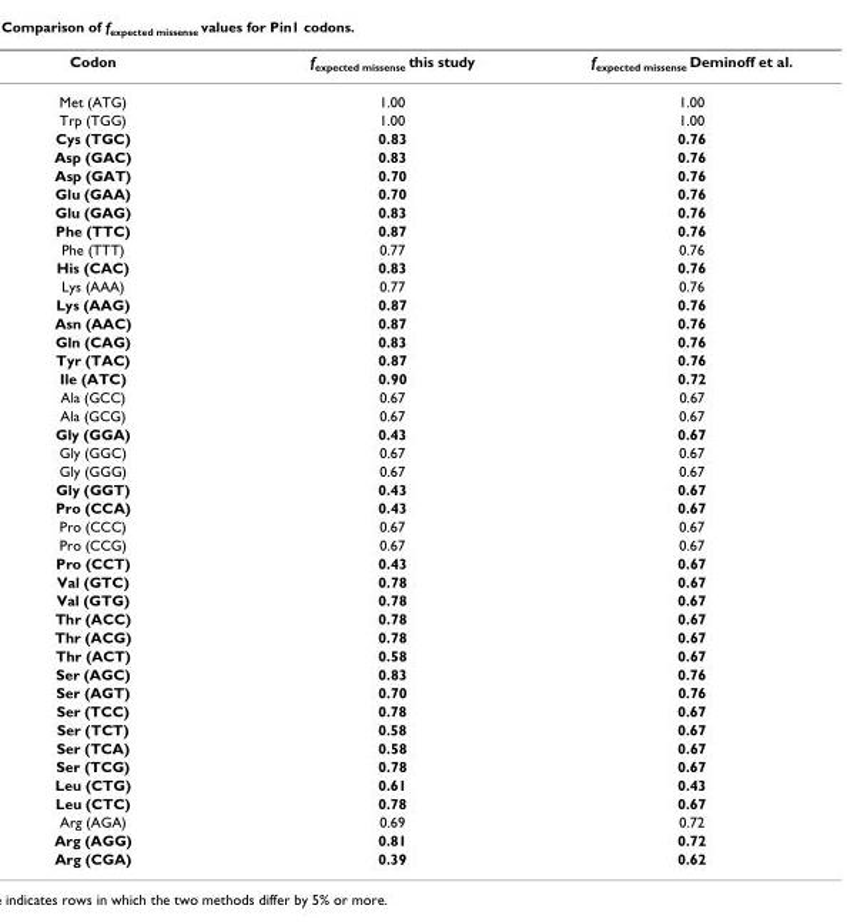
<table><thead><tr><td>Codon</td><td>fexpected missense this study</td><td>fexpected missense Deminoff et al.</td></tr></thead><tbody><tr><td>Met (ATG)</td><td>1.00</td><td>1.00</td></tr><tr><td>Trp (TGG)</td><td>1.00</td><td>1.00</td></tr><tr><td>Cys (TGC)</td><td>0.83</td><td>0.76</td></tr><tr><td>Asp (GAC)</td><td>0.83</td><td>0.76</td></tr><tr><td>Asp (GAT)</td><td>0.70</td><td>0.76</td></tr><tr><td>Glu (GAA)</td><td>0.70</td><td>0.76</td></tr><tr><td>Glu (GAG)</td><td>0.83</td><td>0.76</td></tr><tr><td>Phe (TTC)</td><td>0.87</td><td>0.76</td></tr><tr><td>Phe (TTT)</td><td>0.77</td><td>0.76</td></tr><tr><td>His (CAC)</td><td>0.83</td><td>0.76</td></tr><tr><td>Lys (AAA)</td><td>0.77</td><td>0.76</td></tr><tr><td>Lys (AAG)</td><td>0.87</td><td>0.76</td></tr><tr><td>Asn (AAC)</td><td>0.87</td><td>0.76</td></tr><tr><td>Gln (CAG)</td><td>0.83</td><td>0.76</td></tr><tr><td>Tyr (TAC)</td><td>0.87</td><td>0.76</td></tr><tr><td>Ile (ATC)</td><td>0.90</td><td>0.72</td></tr><tr><td>Ala (GCC)</td><td>0.67</td><td>0.67</td></tr><tr><td>Ala (GCG)</td><td>0.67</td><td>0.67</td></tr><tr><td>Gly (GGA)</td><td>0.43</td><td>0.67</td></tr><tr><td>Gly (GGC)</td><td>0.67</td><td>0.67</td></tr><tr><td>Gly (GGG)</td><td>0.67</td><td>0.67</td></tr><tr><td>Gly (GGT)</td><td>0.43</td><td>0.67</td></tr><tr><td>Pro (CCA)</td><td>0.43</td><td>0.67</td></tr><tr><td>Pro (CCC)</td><td>0.67</td><td>0.67</td></tr><tr><td>Pro (CCG)</td><td>0.67</td><td>0.67</td></tr><tr><td>Pro (CCT)</td><td>0.43</td><td>0.67</td></tr><tr><td>Val (GTC)</td><td>0.78</td><td>0.67</td></tr><tr><td>Val (GTG)</td><td>0.78</td><td>0.67</td></tr><tr><td>Thr (ACC)</td><td>0.78</td><td>0.67</td></tr><tr><td>Thr (ACG)</td><td>0.78</td><td>0.67</td></tr><tr><td>Thr (ACT)</td><td>0.58</td><td>0.67</td></tr><tr><td>Ser (AGC)</td><td>0.83</td><td>0.76</td></tr><tr><td>Ser (AGT)</td><td>0.70</td><td>0.76</td></tr><tr><td>Ser (TCC)</td><td>0.78</td><td>0.67</td></tr><tr><td>Ser (TCT)</td><td>0.58</td><td>0.67</td></tr><tr><td>Ser (TCA)</td><td>0.58</td><td>0.67</td></tr><tr><td>Ser (TCG)</td><td>0.78</td><td>0.67</td></tr><tr><td>Leu (CTG)</td><td>0.61</td><td>0.43</td></tr><tr><td>Leu (CTC)</td><td>0.78</td><td>0.67</td></tr><tr><td>Arg (AGA)</td><td>0.69</td><td>0.72</td></tr><tr><td>Arg (AGG)</td><td>0.81</td><td>0.72</td></tr><tr><td>Arg (CGA)</td><td>0.39</td><td>0.62</td></tr></tbody></table>